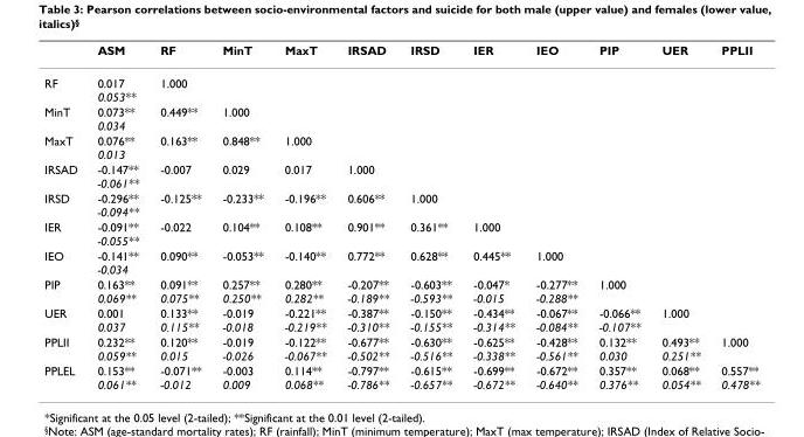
<table><thead><tr><td></td><td>ASM</td><td>RF</td><td>MinT</td><td>MaxT</td><td>IRSAD</td><td>IRSD</td><td>IER</td><td>IEO</td><td>PIP</td><td>UER</td><td>PPLII</td></tr></thead><tbody><tr><td>RF</td><td>0.017 0.053**</td><td>1.000</td><td></td><td></td><td></td><td></td><td></td><td></td><td></td><td></td><td></td></tr><tr><td>MinT</td><td>0.073** 0.034</td><td>0.449**</td><td>1.000</td><td></td><td></td><td></td><td></td><td></td><td></td><td></td><td></td></tr><tr><td>MaxT</td><td>0.076** 0.013</td><td>0.163**</td><td>0.848**</td><td>1.000</td><td></td><td></td><td></td><td></td><td></td><td></td><td></td></tr><tr><td>IRSAD</td><td>-0.147** -0.061**</td><td>-0.007</td><td>0.029</td><td>0.017</td><td>1.000</td><td></td><td></td><td></td><td></td><td></td><td></td></tr><tr><td>IRSD</td><td>-0.296** -0.094**</td><td>-0.125**</td><td>-0.233**</td><td>-0.196**</td><td>0.606**</td><td>1.000</td><td></td><td></td><td></td><td></td><td></td></tr><tr><td>IER</td><td>-0.091** -0.055**</td><td>-0.022</td><td>0.104**</td><td>0.108**</td><td>0.901**</td><td>0.361**</td><td>1.000</td><td></td><td></td><td></td><td></td></tr><tr><td>IEO</td><td>-0.141** -0.034</td><td>0.090**</td><td>-0.053**</td><td>-0.140**</td><td>0.772**</td><td>0.628**</td><td>0.445**</td><td>1.000</td><td></td><td></td><td></td></tr><tr><td>PIP</td><td>0.163** 0.069**</td><td>0.091** 0.075**</td><td>0.257** 0.250**</td><td>0.280** 0.282**</td><td>-0.207** -0.189**</td><td>-0.603** -0.593**</td><td>-0.047* -0.015</td><td>-0.277** -0.288**</td><td>1.000</td><td></td><td></td></tr><tr><td>UER</td><td>0.001 0.037</td><td>0.133** 0.115**</td><td>-0.019 -0.018</td><td>-0.221** -0.219**</td><td>-0.387** -0.310**</td><td>-0.150** -0.155**</td><td>-0.434** -0.314**</td><td>-0.067** -0.084**</td><td>-0.066** -0.107**</td><td>1.000</td><td></td></tr><tr><td>PPLII</td><td>0.232** 0.059**</td><td>0.120** 0.015</td><td>-0.019 -0.026</td><td>-0.122** -0.067**</td><td>-0.677** -0.502**</td><td>-0.630** -0.516**</td><td>-0.625** -0.338**</td><td>-0.428** -0.561**</td><td>0.132** 0.030</td><td>0.493** 0.251**</td><td>1.000</td></tr><tr><td>PPLEL</td><td>0.153** 0.061**</td><td>-0.071** -0.012</td><td>-0.003 0.009</td><td>0.114** 0.068**</td><td>-0.797** -0.786**</td><td>-0.615** -0.657**</td><td>-0.699** -0.672**</td><td>-0.672** -0.640**</td><td>0.357** 0.376**</td><td>0.068** 0.054**</td><td>0.557** 0.478**</td></tr></tbody></table>